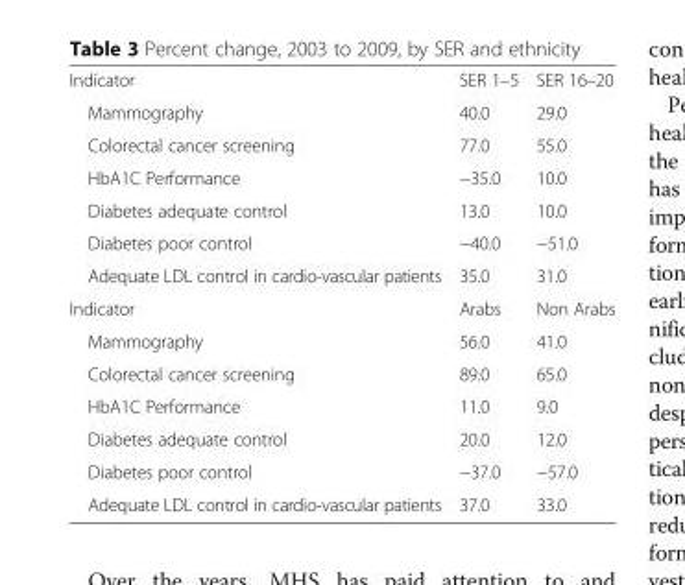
<table><tbody><tr><td>Indicator</td><td>SER 1–5</td><td>SER 16–20</td></tr><tr><td>Mammography</td><td>40.0</td><td>29.0</td></tr><tr><td>Colorectal cancer screening</td><td>77.0</td><td>55.0</td></tr><tr><td>HbA1C Performance</td><td>−35.0</td><td>10.0</td></tr><tr><td>Diabetes adequate control</td><td>13.0</td><td>10.0</td></tr><tr><td>Diabetes poor control</td><td>−40.0</td><td>−51.0</td></tr><tr><td>Adequate LDL control in cardio-vascular patients</td><td>35.0</td><td>31.0</td></tr><tr><td>Indicator</td><td>Arabs</td><td>Non Arabs</td></tr><tr><td>Mammography</td><td>56.0</td><td>41.0</td></tr><tr><td>Colorectal cancer screening</td><td>89.0</td><td>65.0</td></tr><tr><td>HbA1C Performance</td><td>11.0</td><td>9.0</td></tr><tr><td>Diabetes adequate control</td><td>20.0</td><td>12.0</td></tr><tr><td>Diabetes poor control</td><td>−37.0</td><td>−57.0</td></tr><tr><td>Adequate LDL control in cardio-vascular patients</td><td>37.0</td><td>33.0</td></tr></tbody></table>